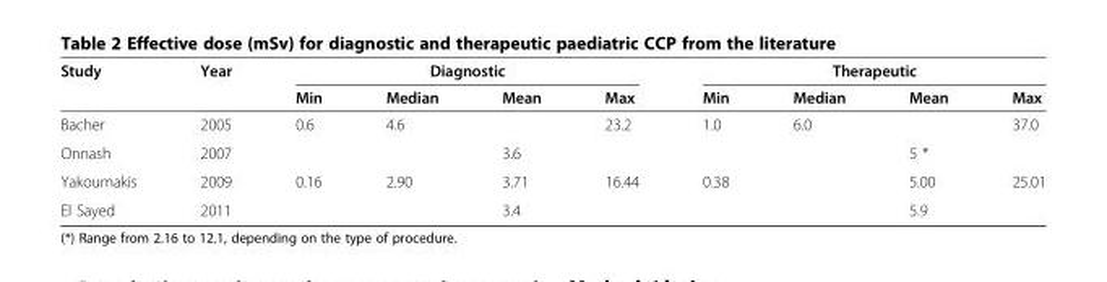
<table><thead><tr><td rowspan="2">Study</td><td rowspan="2">Year</td><td colspan="4">Diagnostic</td><td colspan="4">Therapeutic</td></tr><tr><td>Min</td><td>Median</td><td>Mean</td><td>Max</td><td>Min</td><td>Median</td><td>Mean</td><td>Max</td></tr></thead><tbody><tr><td>Bacher</td><td>2005</td><td>0.6</td><td>4.6</td><td></td><td>23.2</td><td>1.0</td><td>6.0</td><td></td><td>37.0</td></tr><tr><td>Onnash</td><td>2007</td><td></td><td></td><td>3.6</td><td></td><td></td><td></td><td>5 *</td><td></td></tr><tr><td>Yakoumakis</td><td>2009</td><td>0.16</td><td>2.90</td><td>3.71</td><td>16.44</td><td>0.38</td><td></td><td>5.00</td><td>25.01</td></tr><tr><td>El Sayed</td><td>2011</td><td></td><td></td><td>3.4</td><td></td><td></td><td></td><td>5.9</td><td></td></tr></tbody></table>